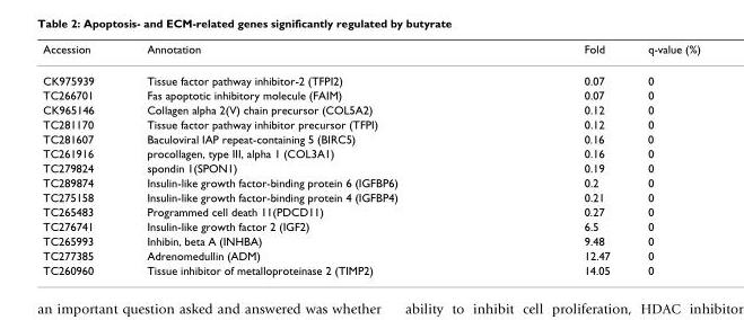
<table><thead><tr><td>Accession</td><td>Annotation</td><td>Fold</td><td>q-value (%)</td></tr></thead><tbody><tr><td>CK975939</td><td>Tissue factor pathway inhibitor-2 (TFPI2)</td><td>0.07</td><td>0</td></tr><tr><td>TC266701</td><td>Fas apoptotic inhibitory molecule (FAIM)</td><td>0.07</td><td>0</td></tr><tr><td>CK965146</td><td>Collagen alpha 2(V) chain precursor (COL5A2)</td><td>0.12</td><td>0</td></tr><tr><td>TC281170</td><td>Tissue factor pathway inhibitor precursor (TFPI)</td><td>0.12</td><td>0</td></tr><tr><td>TC281607</td><td>Baculoviral IAP repeat-containing 5 (BIRC5)</td><td>0.16</td><td>0</td></tr><tr><td>TC261916</td><td>procollagen, type III, alpha 1 (COL3A1)</td><td>0.16</td><td>0</td></tr><tr><td>TC279824</td><td>spondin 1(SPON1)</td><td>0.19</td><td>0</td></tr><tr><td>TC289874</td><td>Insulin-like growth factor-binding protein 6 (IGFBP6)</td><td>0.2</td><td>0</td></tr><tr><td>TC275158</td><td>Insulin-like growth factor-binding protein 4 (IGFBP4)</td><td>0.21</td><td>0</td></tr><tr><td>TC265483</td><td>Programmed cell death 11(PDCD11)</td><td>0.27</td><td>0</td></tr><tr><td>TC276741</td><td>Insulin-like growth factor 2 (IGF2)</td><td>6.5</td><td>0</td></tr><tr><td>TC265993</td><td>Inhibin, beta A (INHBA)</td><td>9.48</td><td>0</td></tr><tr><td>TC277385</td><td>Adrenomedullin (ADM)</td><td>12.47</td><td>0</td></tr><tr><td>TC260960</td><td>Tissue inhibitor of metalloproteinase 2 (TIMP2)</td><td>14.05</td><td>0</td></tr></tbody></table>